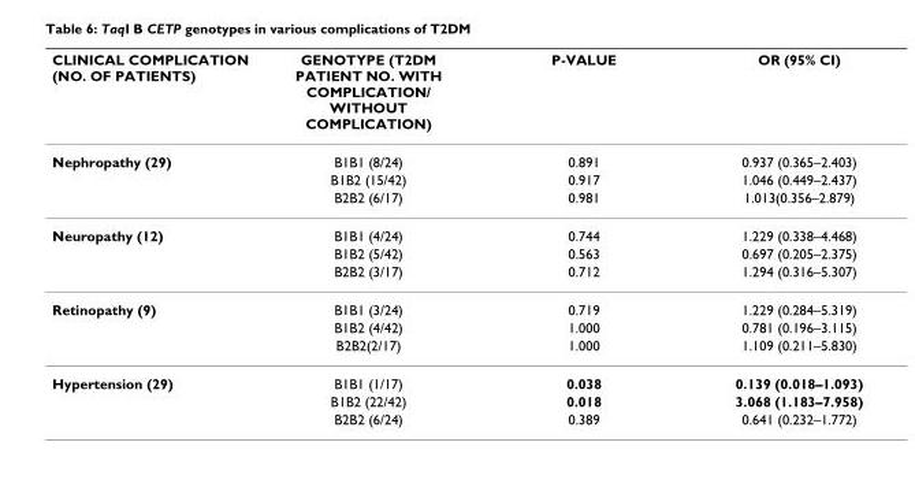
<table><thead><tr><td>CLINICAL COMPLICATION (NO. OF PATIENTS)</td><td>GENOTYPE (T2DM PATIENT NO. WITH COMPLICATION/ WITHOUT COMPLICATION)</td><td>P-VALUE</td><td>OR (95% CI)</td></tr></thead><tbody><tr><td rowspan="3">Nephropathy (29)</td><td>B1B1 (8/24)</td><td>0.891</td><td>0.937 (0.365–2.403)</td></tr><tr><td>B1B2 (15/42)</td><td>0.917</td><td>1.046 (0.449–2.437)</td></tr><tr><td>B2B2 (6/17)</td><td>0.981</td><td>1.013(0.356–2.879)</td></tr><tr><td rowspan="3">Neuropathy (12)</td><td>B1B1 (4/24)</td><td>0.744</td><td>1.229 (0.338–4.468)</td></tr><tr><td>B1B2 (5/42)</td><td>0.563</td><td>0.697 (0.205–2.375)</td></tr><tr><td>B2B2 (3/17)</td><td>0.712</td><td>1.294 (0.316–5.307)</td></tr><tr><td rowspan="3">Retinopathy (9)</td><td>B1B1 (3/24)</td><td>0.719</td><td>1.229 (0.284–5.319)</td></tr><tr><td>B1B2 (4/42)</td><td>1.000</td><td>0.781 (0.196–3.115)</td></tr><tr><td>B2B2(2/17)</td><td>1.000</td><td>1.109 (0.211–5.830)</td></tr><tr><td rowspan="3">Hypertension (29)</td><td>B1B1 (1/17)</td><td>0.038</td><td>0.139 (0.018–1.093)</td></tr><tr><td>B1B2 (22/42)</td><td>0.018</td><td>3.068 (1.183–7.958)</td></tr><tr><td>B2B2 (6/24)</td><td>0.389</td><td>0.641 (0.232–1.772)</td></tr></tbody></table>